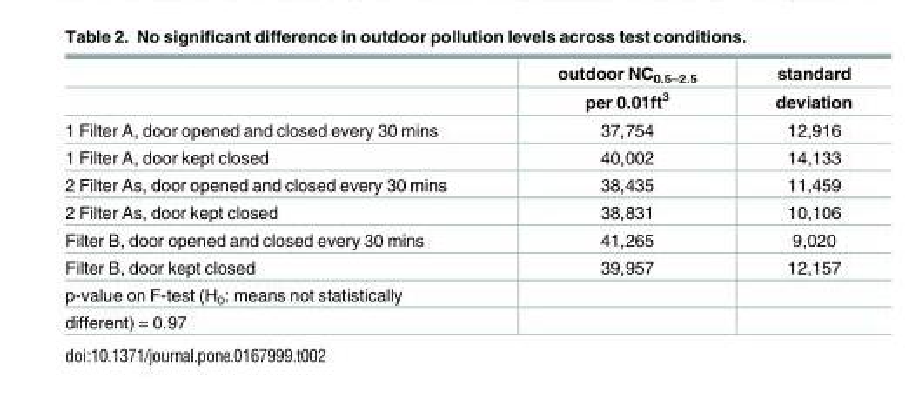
<table><thead><tr><td rowspan="2"></td><td rowspan="2">outdoor NC<sub>0.5–2.5</sub> per 0.01ft<sup>3</sup></td><td rowspan="2">standard deviation</td></tr><tr></tr></thead><tbody><tr><td>1 Filter A, door opened and closed every 30 mins</td><td>37,754</td><td>12,916</td></tr><tr><td>1 Filter A, door kept closed</td><td>40,002</td><td>14,133</td></tr><tr><td>2 Filter As, door opened and closed every 30 mins</td><td>38,435</td><td>11,459</td></tr><tr><td>2 Filter As, door kept closed</td><td>38,831</td><td>10,106</td></tr><tr><td>Filter B, door opened and closed every 30 mins</td><td>41,265</td><td>9,020</td></tr><tr><td>Filter B, door kept closed</td><td>39,957</td><td>12,157</td></tr><tr><td colspan="3">p-value on F-test (H<sub>0</sub>: means not statistically</td></tr><tr><td>different) = 0.97</td><td></td><td></td></tr></tbody></table>